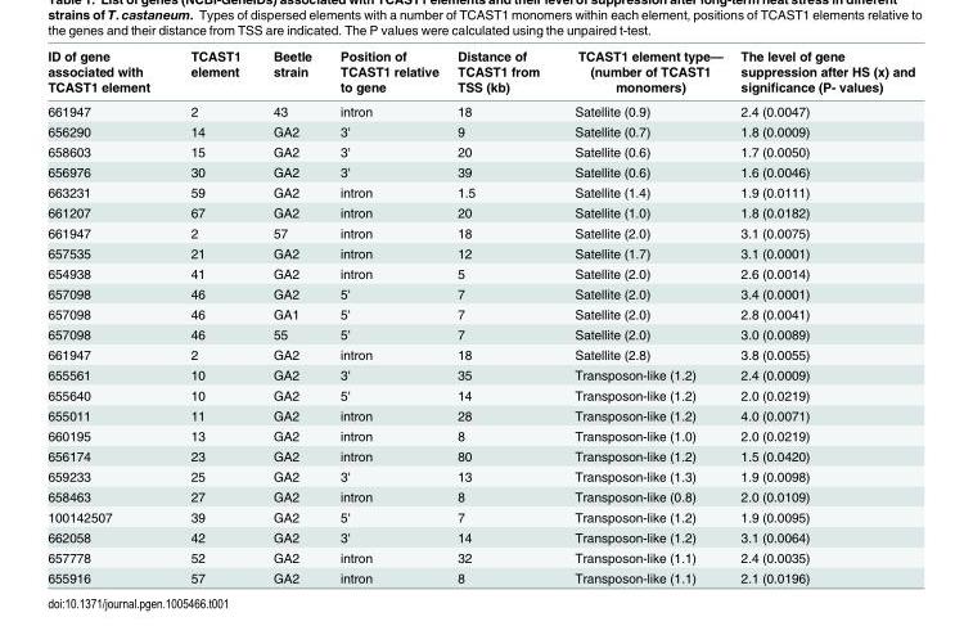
<table><thead><tr><td>ID of gene associated with TCAST1 element</td><td>TCAST1 element</td><td>Beetle strain</td><td>Position of TCAST1 relative to gene</td><td>Distance of TCAST1 from TSS (kb)</td><td>TCAST1 element type— (number of TCAST1 monomers)</td><td>The level of gene suppression after HS (x) and significance (P- values)</td></tr></thead><tbody><tr><td>661947</td><td>2</td><td>43</td><td>intron</td><td>18</td><td>Satellite (0.9)</td><td>2.4 (0.0047)</td></tr><tr><td>656290</td><td>14</td><td>GA2</td><td>3&#x27;</td><td>9</td><td>Satellite (0.7)</td><td>1.8 (0.0009)</td></tr><tr><td>658603</td><td>15</td><td>GA2</td><td>3&#x27;</td><td>20</td><td>Satellite (0.6)</td><td>1.7 (0.0050)</td></tr><tr><td>656976</td><td>30</td><td>GA2</td><td>3&#x27;</td><td>39</td><td>Satellite (0.6)</td><td>1.6 (0.0046)</td></tr><tr><td>663231</td><td>59</td><td>GA2</td><td>intron</td><td>1.5</td><td>Satellite (1.4)</td><td>1.9 (0.0111)</td></tr><tr><td>661207</td><td>67</td><td>GA2</td><td>intron</td><td>20</td><td>Satellite (1.0)</td><td>1.8 (0.0182)</td></tr><tr><td>661947</td><td>2</td><td>57</td><td>intron</td><td>18</td><td>Satellite (2.0)</td><td>3.1 (0.0075)</td></tr><tr><td>657535</td><td>21</td><td>GA2</td><td>intron</td><td>12</td><td>Satellite (1.7)</td><td>3.1 (0.0001)</td></tr><tr><td>654938</td><td>41</td><td>GA2</td><td>intron</td><td>5</td><td>Satellite (2.0)</td><td>2.6 (0.0014)</td></tr><tr><td>657098</td><td>46</td><td>GA2</td><td>5&#x27;</td><td>7</td><td>Satellite (2.0)</td><td>3.4 (0.0001)</td></tr><tr><td>657098</td><td>46</td><td>GA1</td><td>5&#x27;</td><td>7</td><td>Satellite (2.0)</td><td>2.8 (0.0041)</td></tr><tr><td>657098</td><td>46</td><td>55</td><td>5&#x27;</td><td>7</td><td>Satellite (2.0)</td><td>3.0 (0.0089)</td></tr><tr><td>661947</td><td>2</td><td>GA2</td><td>intron</td><td>18</td><td>Satellite (2.8)</td><td>3.8 (0.0055)</td></tr><tr><td>655561</td><td>10</td><td>GA2</td><td>3&#x27;</td><td>35</td><td>Transposon-like (1.2)</td><td>2.4 (0.0009)</td></tr><tr><td>655640</td><td>10</td><td>GA2</td><td>5&#x27;</td><td>14</td><td>Transposon-like (1.2)</td><td>2.0 (0.0219)</td></tr><tr><td>655011</td><td>11</td><td>GA2</td><td>intron</td><td>28</td><td>Transposon-like (1.2)</td><td>4.0 (0.0071)</td></tr><tr><td>660195</td><td>13</td><td>GA2</td><td>intron</td><td>8</td><td>Transposon-like (1.0)</td><td>2.0 (0.0219)</td></tr><tr><td>656174</td><td>23</td><td>GA2</td><td>intron</td><td>80</td><td>Transposon-like (1.2)</td><td>1.5 (0.0420)</td></tr><tr><td>659233</td><td>25</td><td>GA2</td><td>3&#x27;</td><td>13</td><td>Transposon-like (1.3)</td><td>1.9 (0.0098)</td></tr><tr><td>658463</td><td>27</td><td>GA2</td><td>intron</td><td>8</td><td>Transposon-like (0.8)</td><td>2.0 (0.0109)</td></tr><tr><td>100142507</td><td>39</td><td>GA2</td><td>5&#x27;</td><td>7</td><td>Transposon-like (1.2)</td><td>1.9 (0.0095)</td></tr><tr><td>662058</td><td>42</td><td>GA2</td><td>3&#x27;</td><td>14</td><td>Transposon-like (1.2)</td><td>3.1 (0.0064)</td></tr><tr><td>657778</td><td>52</td><td>GA2</td><td>intron</td><td>32</td><td>Transposon-like (1.1)</td><td>2.4 (0.0035)</td></tr><tr><td>655916</td><td>57</td><td>GA2</td><td>intron</td><td>8</td><td>Transposon-like (1.1)</td><td>2.1 (0.0196)</td></tr></tbody></table>